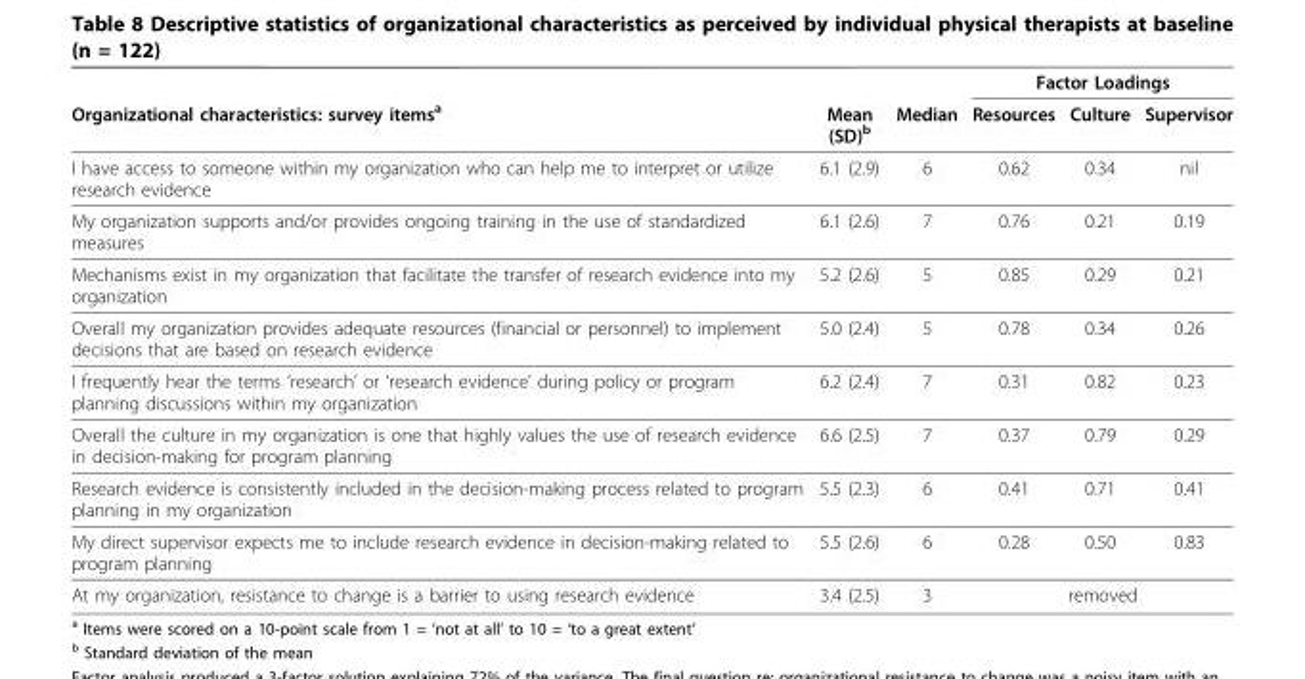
<table><thead><tr><td rowspan="2">Organizational characteristics: survey items<sup>a</sup></td><td rowspan="2">Mean (SD)<sup>b</sup></td><td rowspan="2">Median</td><td colspan="3">Factor Loadings</td></tr><tr><td>Resources</td><td>Culture</td><td>Supervisor</td></tr></thead><tbody><tr><td>I have access to someone within my organization who can help me to interpret or utilize research evidence</td><td>6.1 (2.9)</td><td>6</td><td>0.62</td><td>0.34</td><td>nil</td></tr><tr><td>My organization supports and/or provides ongoing training in the use of standardized measures</td><td>6.1 (2.6)</td><td>7</td><td>0.76</td><td>0.21</td><td>0.19</td></tr><tr><td>Mechanisms exist in my organization that facilitate the transfer of research evidence into my organization</td><td>5.2 (2.6)</td><td>5</td><td>0.85</td><td>0.29</td><td>0.21</td></tr><tr><td>Overall my organization provides adequate resources (financial or personnel) to implement decisions that are based on research evidence</td><td>5.0 (2.4)</td><td>5</td><td>0.78</td><td>0.34</td><td>0.26</td></tr><tr><td>I frequently hear the terms ‘research’ or ‘research evidence’ during policy or program planning discussions within my organization</td><td>6.2 (2.4)</td><td>7</td><td>0.31</td><td>0.82</td><td>0.23</td></tr><tr><td>Overall the culture in my organization is one that highly values the use of research evidence in decision-making for program planning</td><td>6.6 (2.5)</td><td>7</td><td>0.37</td><td>0.79</td><td>0.29</td></tr><tr><td>Research evidence is consistently included in the decision-making process related to program planning in my organization</td><td>5.5 (2.3)</td><td>6</td><td>0.41</td><td>0.71</td><td>0.41</td></tr><tr><td>My direct supervisor expects me to include research evidence in decision-making related to program planning</td><td>5.5 (2.6)</td><td>6</td><td>0.28</td><td>0.50</td><td>0.83</td></tr><tr><td>At my organization, resistance to change is a barrier to using research evidence</td><td>3.4 (2.5)</td><td>3</td><td colspan="3">removed</td></tr></tbody></table>